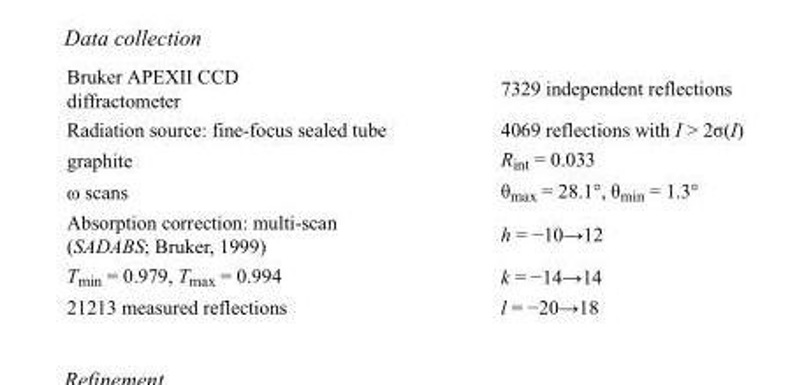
<table><tbody><tr><td>Bruker APEXII CCD diffractometer</td><td>7329 independent reflections</td></tr><tr><td>Radiation source: fine-focus sealed tube</td><td>4069 reflections with I &gt; 2σ(I)</td></tr><tr><td>graphite</td><td>R<sub>int</sub> = 0.033</td></tr><tr><td>ω scans</td><td>θ<sub>max</sub> = 28.1°, θ<sub>min</sub> = 1.3°</td></tr><tr><td>Absorption correction: multi-scan (SADABS; Bruker, 1999)</td><td>h = −10→12</td></tr><tr><td>T<sub>min</sub> = 0.979, T<sub>max</sub> = 0.994</td><td>k = −14→14</td></tr><tr><td>21213 measured reflections</td><td>l = −20→18</td></tr></tbody></table>